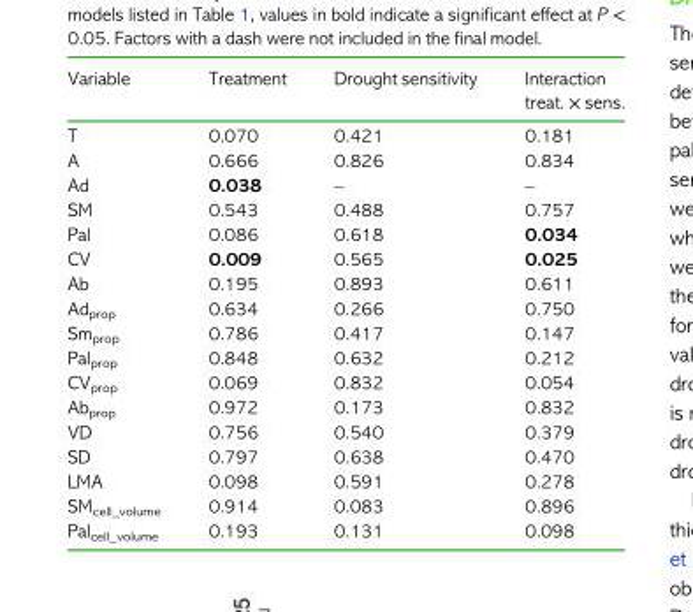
<table><thead><tr><td>Variable</td><td>Treatment</td><td>Drought sensitivity</td><td>Interaction treat. × sens.</td></tr></thead><tbody><tr><td>T</td><td>0.070</td><td>0.421</td><td>0.181</td></tr><tr><td>A</td><td>0.666</td><td>0.826</td><td>0.834</td></tr><tr><td>Ad</td><td>0.038</td><td>–</td><td>–</td></tr><tr><td>SM</td><td>0.543</td><td>0.488</td><td>0.757</td></tr><tr><td>Pal</td><td>0.086</td><td>0.618</td><td>0.034</td></tr><tr><td>CV</td><td>0.009</td><td>0.565</td><td>0.025</td></tr><tr><td>Ab</td><td>0.195</td><td>0.893</td><td>0.611</td></tr><tr><td>Ad<sub>prop</sub></td><td>0.634</td><td>0.266</td><td>0.750</td></tr><tr><td>Sm<sub>prop</sub></td><td>0.786</td><td>0.417</td><td>0.147</td></tr><tr><td>Pal<sub>prop</sub></td><td>0.848</td><td>0.632</td><td>0.212</td></tr><tr><td>CV<sub>prop</sub></td><td>0.069</td><td>0.832</td><td>0.054</td></tr><tr><td>Ab<sub>prop</sub></td><td>0.972</td><td>0.173</td><td>0.832</td></tr><tr><td>VD</td><td>0.756</td><td>0.540</td><td>0.379</td></tr><tr><td>SD</td><td>0.797</td><td>0.638</td><td>0.470</td></tr><tr><td>LMA</td><td>0.098</td><td>0.591</td><td>0.278</td></tr><tr><td>SM<sub>cell_volume</sub></td><td>0.914</td><td>0.083</td><td>0.896</td></tr><tr><td>Pal<sub>cell_volume</sub></td><td>0.193</td><td>0.131</td><td>0.098</td></tr></tbody></table>